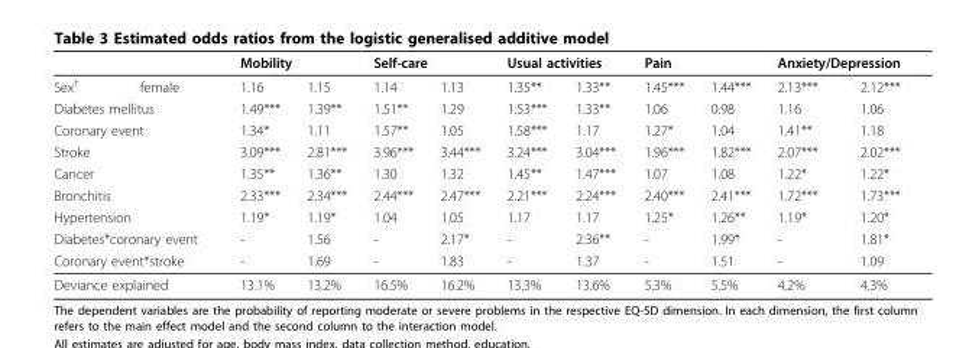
<table><thead><tr><td rowspan="2">Sex<sup>†</sup></td><td rowspan="2">female</td><td colspan="2">Mobility</td><td colspan="2">Self-care</td><td colspan="2">Usual activities</td><td colspan="2">Pain</td><td colspan="2">Anxiety/Depression</td></tr><tr><td>1.16</td><td>1.15</td><td>1.14</td><td>1.13</td><td>1.35**</td><td>1.33**</td><td>1.45***</td><td>1.44***</td><td>2.13***</td><td>2.12***</td></tr></thead><tbody><tr><td colspan="2">Diabetes mellitus</td><td>1.49***</td><td>1.39**</td><td>1.51**</td><td>1.29</td><td>1.53***</td><td>1.33**</td><td>1.06</td><td>0.98</td><td>1.16</td><td>1.06</td></tr><tr><td colspan="2">Coronary event</td><td>1.34*</td><td>1.11</td><td>1.57**</td><td>1.05</td><td>1.58***</td><td>1.17</td><td>1.27*</td><td>1.04</td><td>1.41**</td><td>1.18</td></tr><tr><td colspan="2">Stroke</td><td>3.09***</td><td>2.81***</td><td>3.96***</td><td>3.44***</td><td>3.24***</td><td>3.04***</td><td>1.96***</td><td>1.82***</td><td>2.07***</td><td>2.02***</td></tr><tr><td colspan="2">Cancer</td><td>1.35**</td><td>1.36**</td><td>1.30</td><td>1.32</td><td>1.45**</td><td>1.47***</td><td>1.07</td><td>1.08</td><td>1.22*</td><td>1.22*</td></tr><tr><td colspan="2">Bronchitis</td><td>2.33***</td><td>2.34***</td><td>2.44***</td><td>2.47***</td><td>2.21***</td><td>2.24***</td><td>2.40***</td><td>2.41***</td><td>1.72***</td><td>1.73***</td></tr><tr><td colspan="2">Hypertension</td><td>1.19*</td><td>1.19*</td><td>1.04</td><td>1.05</td><td>1.17</td><td>1.17</td><td>1.25*</td><td>1.26**</td><td>1.19*</td><td>1.20*</td></tr><tr><td colspan="2">Diabetes*coronary event</td><td>-</td><td>1.56</td><td>-</td><td>2.17*</td><td>-</td><td>2.36**</td><td>-</td><td>1.99*</td><td>-</td><td>1.81*</td></tr><tr><td colspan="2">Coronary event*stroke</td><td>-</td><td>1.69</td><td>-</td><td>1.83</td><td>-</td><td>1.37</td><td>-</td><td>1.51</td><td>-</td><td>1.09</td></tr><tr><td colspan="2">Deviance explained</td><td>13.1%</td><td>13.2%</td><td>16.5%</td><td>16.2%</td><td>13.3%</td><td>13.6%</td><td>5.3%</td><td>5.5%</td><td>4.2%</td><td>4.3%</td></tr></tbody></table>